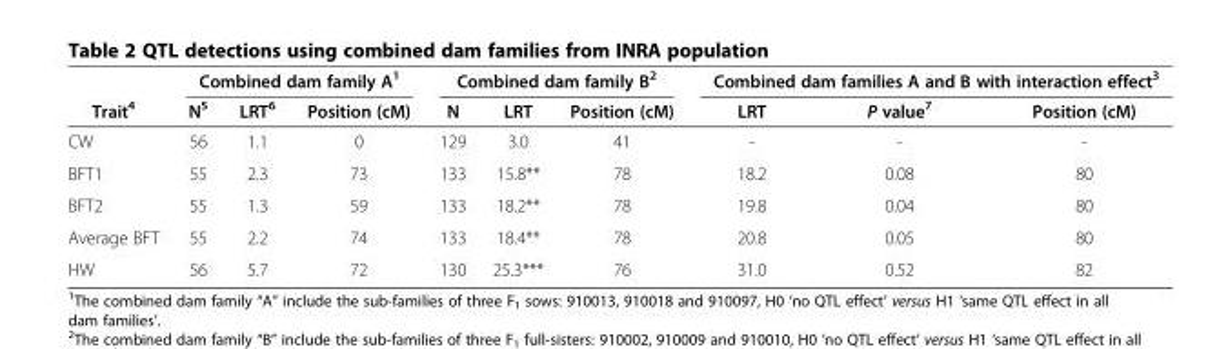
<table><thead><tr><td rowspan="2">Trait<sup>4</sup></td><td colspan="3">Combined dam family A<sup>1</sup></td><td colspan="3">Combined dam family B<sup>2</sup></td><td colspan="3">Combined dam families A and B with interaction effect<sup>3</sup></td></tr><tr><td>N<sup>5</sup></td><td>LRT<sup>6</sup></td><td>Position (cM)</td><td>N</td><td>LRT</td><td>Position (cM)</td><td>LRT</td><td>P value<sup>7</sup></td><td>Position (cM)</td></tr></thead><tbody><tr><td>CW</td><td>56</td><td>1.1</td><td>0</td><td>129</td><td>3.0</td><td>41</td><td>-</td><td>-</td><td>-</td></tr><tr><td>BFT1</td><td>55</td><td>2.3</td><td>73</td><td>133</td><td>15.8**</td><td>78</td><td>18.2</td><td>0.08</td><td>80</td></tr><tr><td>BFT2</td><td>55</td><td>1.3</td><td>59</td><td>133</td><td>18.2**</td><td>78</td><td>19.8</td><td>0.04</td><td>80</td></tr><tr><td>Average BFT</td><td>55</td><td>2.2</td><td>74</td><td>133</td><td>18.4**</td><td>78</td><td>20.8</td><td>0.05</td><td>80</td></tr><tr><td>HW</td><td>56</td><td>5.7</td><td>72</td><td>130</td><td>25.3***</td><td>76</td><td>31.0</td><td>0.52</td><td>82</td></tr></tbody></table>